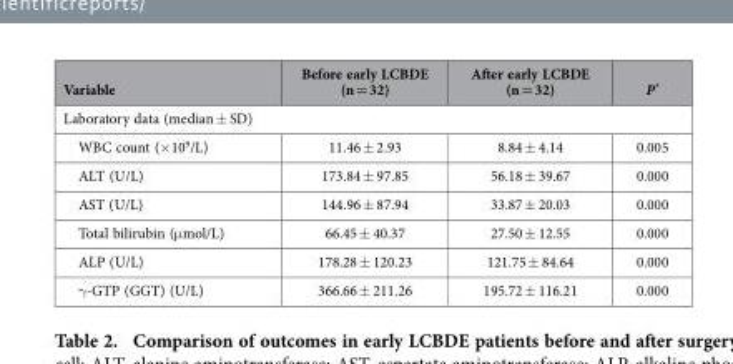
<table><thead><tr><td>Variable</td><td>Before early LCBDE (n = 32)</td><td>After early LCBDE (n = 32)</td><td>P*</td></tr></thead><tbody><tr><td colspan="4">Laboratory data (median ± SD)</td></tr><tr><td>WBC count (×10<sup>9</sup>/L)</td><td>11.46 ± 2.93</td><td>8.84 ± 4.14</td><td>0.005</td></tr><tr><td>ALT (U/L)</td><td>173.84 ± 97.85</td><td>56.18 ± 39.67</td><td>0.000</td></tr><tr><td>AST (U/L)</td><td>144.96 ± 87.94</td><td>33.87 ± 20.03</td><td>0.000</td></tr><tr><td>Total bilirubin (μ mol/L)</td><td>66.45 ± 40.37</td><td>27.50 ± 12.55</td><td>0.000</td></tr><tr><td>ALP (U/L)</td><td>178.28 ± 120.23</td><td>121.75 ± 84.64</td><td>0.000</td></tr><tr><td>γ -GTP (GGT) (U/L)</td><td>366.66 ± 211.26</td><td>195.72 ± 116.21</td><td>0.000</td></tr></tbody></table>